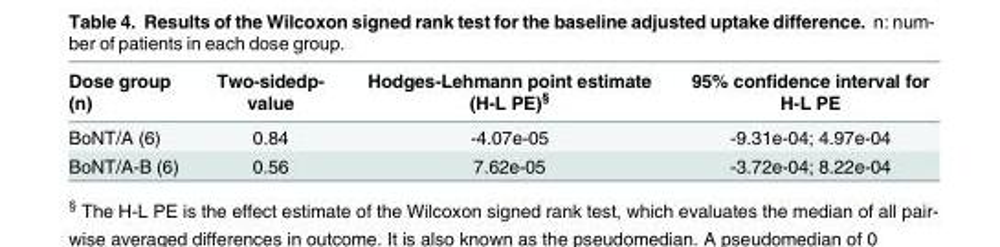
<table><thead><tr><td>Dose group (n)</td><td>Two-sidedp- value</td><td>Hodges-Lehmann point estimate (H-L PE)<sup>§</sup></td><td>95% confidence interval for H-L PE</td></tr></thead><tbody><tr><td>BoNT/A (6)</td><td>0.84</td><td>-4.07e-05</td><td>-9.31e-04; 4.97e-04</td></tr><tr><td>BoNT/A-B (6)</td><td>0.56</td><td>7.62e-05</td><td>-3.72e-04; 8.22e-04</td></tr></tbody></table>